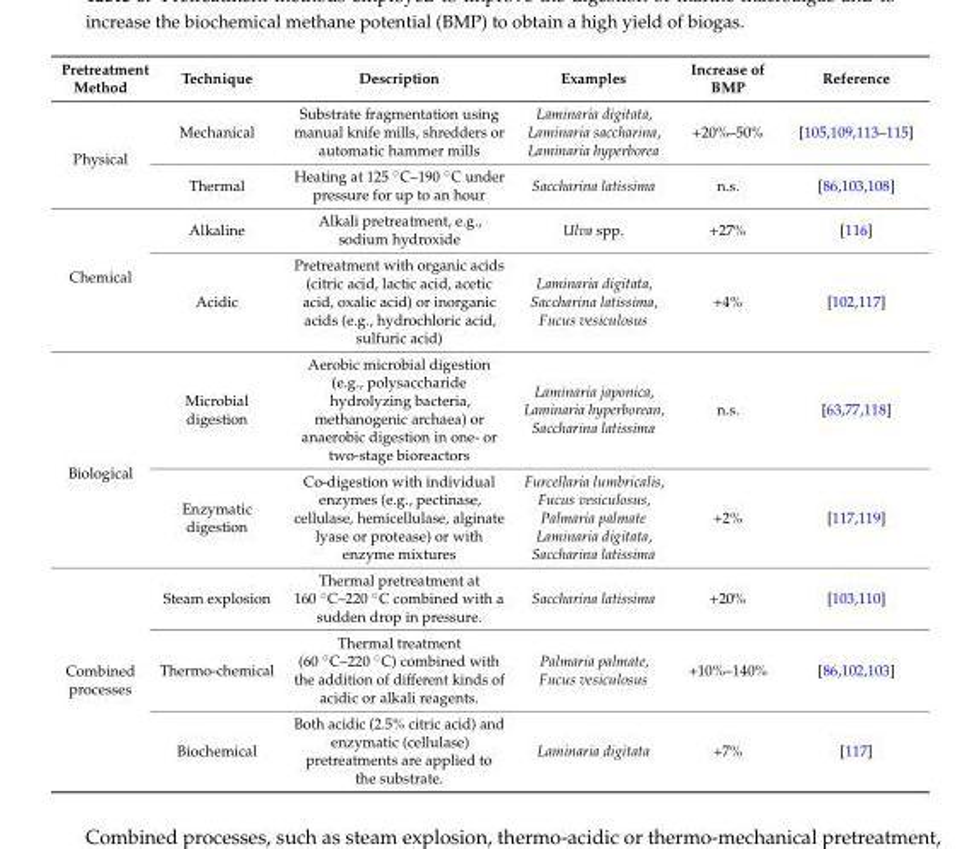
<table><thead><tr><td>Pretreatment Method</td><td>Technique</td><td>Description</td><td>Examples</td><td>Increase of BMP</td><td>Reference</td></tr></thead><tbody><tr><td rowspan="2">Physical</td><td>Mechanical</td><td>Substrate fragmentation using manual knife mills, shredders or automatic hammer mills</td><td>Laminaria digitata, Laminaria saccharina, Laminaria hyperborea</td><td>+20%–50%</td><td>[105,109,113–115]</td></tr><tr><td>Thermal</td><td>Heating at 125 ˝C–190 ˝C under pressure for up to an hour</td><td>Saccharina latissima</td><td>n.s.</td><td>[86,103,108]</td></tr><tr><td rowspan="2">Chemical</td><td>Alkaline</td><td>Alkali pretreatment, e.g., sodium hydroxide</td><td>Ulva spp.</td><td>+27%</td><td>[116]</td></tr><tr><td>Acidic</td><td>Pretreatment with organic acids (citric acid, lactic acid, acetic acid, oxalic acid) or inorganic acids (e.g., hydrochloric acid, sulfuric acid)</td><td>Laminaria digitata, Saccharina latissima, Fucus vesiculosus</td><td>+4%</td><td>[102,117]</td></tr><tr><td rowspan="2">Biological</td><td>Microbial digestion</td><td>Aerobic microbial digestion (e.g., polysaccharide hydrolyzing bacteria, methanogenic archaea) or anaerobic digestion in one- or two-stage bioreactors</td><td>Laminaria japonica, Laminaria hyperborean, Saccharina latissima</td><td>n.s.</td><td>[63,77,118]</td></tr><tr><td>Enzymatic digestion</td><td>Co-digestion with individual enzymes (e.g., pectinase, cellulase, hemicellulase, alginate lyase or protease) or with enzyme mixtures</td><td>Furcellaria lumbricalis, Fucus vesiculosus, Palmaria palmate Laminaria digitata, Saccharina latissima</td><td>+2%</td><td>[117,119]</td></tr><tr><td rowspan="3">Combined processes</td><td>Steam explosion</td><td>Thermal pretreatment at 160 ˝C–220 ˝C combined with a sudden drop in pressure.</td><td>Saccharina latissima</td><td>+20%</td><td>[103,110]</td></tr><tr><td>Thermo-chemical</td><td>Thermal treatment (60 ˝C–220 ˝C) combined with the addition of different kinds of acidic or alkali reagents.</td><td>Palmaria palmate, Fucus vesiculosus</td><td>+10%–140%</td><td>[86,102,103]</td></tr><tr><td>Biochemical</td><td>Both acidic (2.5% citric acid) and enzymatic (cellulase) pretreatments are applied to the substrate.</td><td>Laminaria digitata</td><td>+7%</td><td>[117]</td></tr></tbody></table>